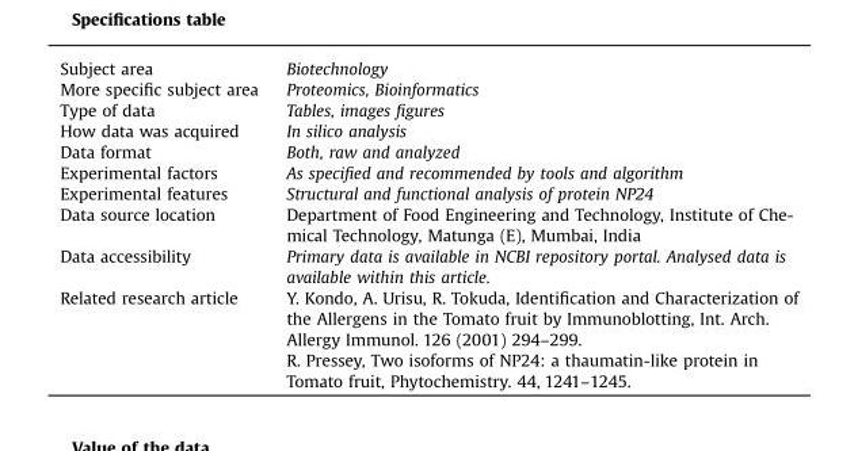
<table><tbody><tr><td>Subject area</td><td>Biotechnology</td></tr><tr><td>More specific subject area</td><td>Proteomics, Bioinformatics</td></tr><tr><td>Type of data</td><td>Tables, images figures</td></tr><tr><td>How data was acquired</td><td>In silico analysis</td></tr><tr><td>Data format</td><td>Both, raw and analyzed</td></tr><tr><td>Experimental factors</td><td>As specified and recommended by tools and algorithm</td></tr><tr><td>Experimental features</td><td>Structural and functional analysis of protein NP24</td></tr><tr><td>Data source location</td><td>Department of Food Engineering and Technology, Institute of Che- mical Technology, Matunga (E), Mumbai, India</td></tr><tr><td>Data accessibility</td><td>Primary data is available in NCBI repository portal. Analysed data is available within this article.</td></tr><tr><td rowspan="2">Related research article</td><td>Y. Kondo, A. Urisu, R. Tokuda, Identification and Characterization of the Allergens in the Tomato fruit by Immunoblotting, Int. Arch. Allergy Immunol. 126 (2001) 294–299.</td></tr><tr><td>R. Pressey, Two isoforms of NP24: a thaumatin-like protein in Tomato fruit, Phytochemistry. 44, 1241–1245.</td></tr></tbody></table>